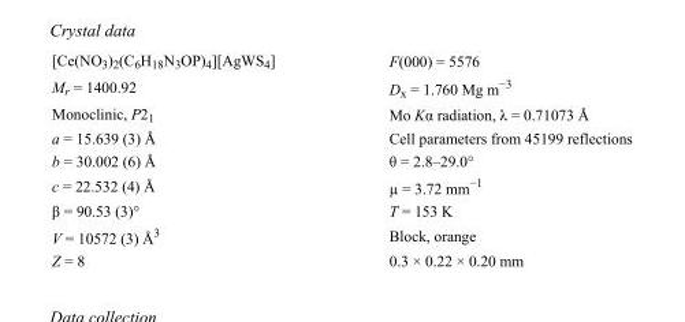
<table><tbody><tr><td>[Ce(NO<sub>3</sub>)<sub>2</sub>(C<sub>6</sub>H<sub>18</sub>N<sub>3</sub>OP)<sub>4</sub>][AgWS<sub>4</sub>]</td><td>F(000) = 5576</td></tr><tr><td>M<sub>r</sub> = 1400.92</td><td>D<sub>x</sub> = 1.760 Mg m<sup>−3</sup></td></tr><tr><td>Monoclinic, P2<sub>1</sub></td><td>Mo Kα radiation, λ = 0.71073 Å</td></tr><tr><td>a = 15.639 (3) Å</td><td>Cell parameters from 45199 reflections</td></tr><tr><td>b = 30.002 (6) Å</td><td>θ = 2.8–29.0°</td></tr><tr><td>c = 22.532 (4) Å</td><td>µ = 3.72 mm<sup>−1</sup></td></tr><tr><td>β = 90.53 (3)°</td><td>T = 153 K</td></tr><tr><td>V = 10572 (3) Å<sup>3</sup></td><td>Block, orange</td></tr><tr><td>Z = 8</td><td>0.3 × 0.22 × 0.20 mm</td></tr></tbody></table>